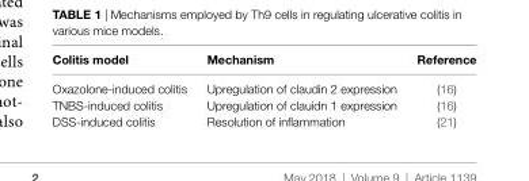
<table><thead><tr><td>colitis model</td><td>Mechanism</td><td>reference</td></tr></thead><tbody><tr><td>Oxazolone-induced colitis</td><td>Upregulation of claudin 2 expression</td><td>(16)</td></tr><tr><td>TNBS-induced colitis</td><td>Upregulation of clauidn 1 expression</td><td>(16)</td></tr><tr><td>DSS-induced colitis</td><td>Resolution of inflammation</td><td>(21)</td></tr></tbody></table>